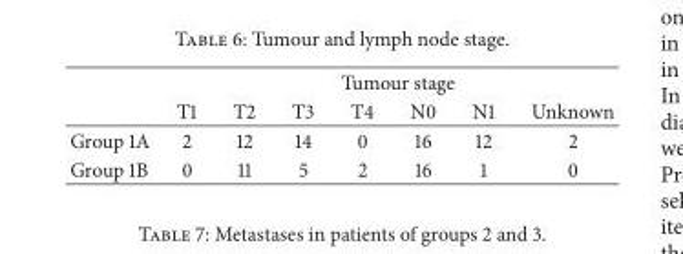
<table><thead><tr><td rowspan="2"></td><td colspan="7">Tumour stage</td></tr><tr><td>T1</td><td>T2</td><td>T3</td><td>T4</td><td>N0</td><td>N1</td><td>Unknown</td></tr></thead><tbody><tr><td>Group 1A</td><td>2</td><td>12</td><td>14</td><td>0</td><td>16</td><td>12</td><td>2</td></tr><tr><td>Group 1B</td><td>0</td><td>11</td><td>5</td><td>2</td><td>16</td><td>1</td><td>0</td></tr></tbody></table>